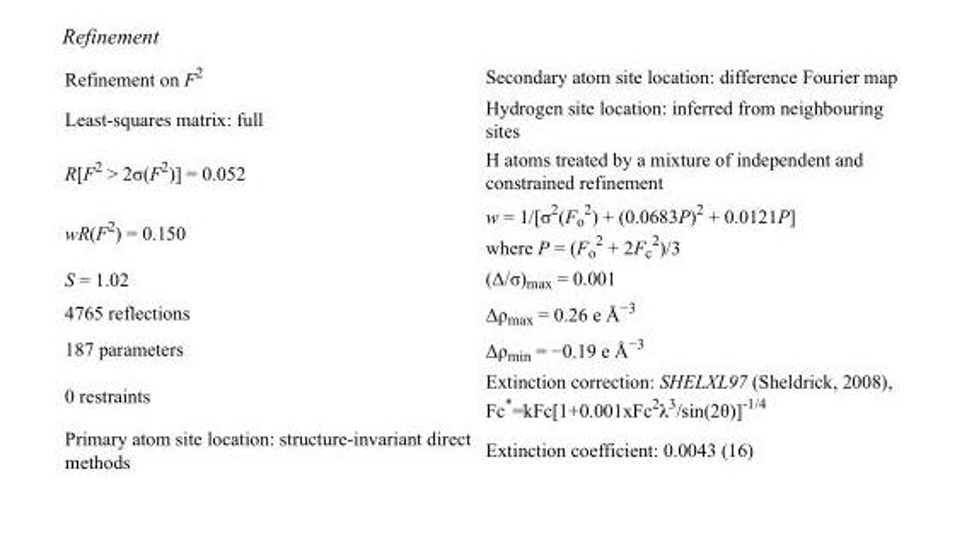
<table><tbody><tr><td>Refinement on F<sup>2</sup></td><td>Secondary atom site location: difference Fourier map</td></tr><tr><td>Least-squares matrix: full</td><td>Hydrogen site location: inferred from neighbouring sites</td></tr><tr><td>R[F<sup>2</sup> &gt; 2σ(F<sup>2</sup>)] = 0.052</td><td>H atoms treated by a mixture of independent and constrained refinement</td></tr><tr><td>wR(F<sup>2</sup>) = 0.150</td><td>w = 1/[σ<sup>2</sup>(F<sub>o</sub> <sup>2</sup>) + (0.0683P)<sup>2</sup> + 0.0121P] where P = (F<sub>o</sub> <sup>2</sup> + 2F<sub>c</sub> <sup>2</sup>)/3</td></tr><tr><td>S = 1.02</td><td>(Δ/σ)<sub>max</sub> = 0.001</td></tr><tr><td>4765 reflections</td><td>Δρ<sub>max</sub> = 0.26 e Å<sup>−3</sup></td></tr><tr><td>187 parameters</td><td>Δρ<sub>min</sub> = −0.19 e Å<sup>−3</sup></td></tr><tr><td>0 restraints</td><td>Extinction correction: SHELXL97 (Sheldrick, 2008), Fc*=kFc[1+0.001xFc<sup>2</sup>λ<sup>3</sup>/sin(2θ)]<sup>-1/4</sup></td></tr><tr><td>Primary atom site location: structure-invariant direct methods</td><td>Extinction coefficient: 0.0043 (16)</td></tr></tbody></table>